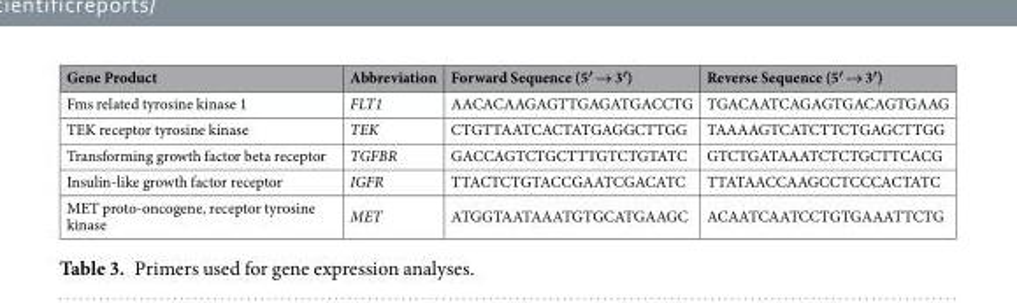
<table><thead><tr><td>Gene Product</td><td>Abbreviation</td><td>Forward Sequence (5′ → 3′)</td><td>Reverse Sequence (5′ → 3′)</td></tr></thead><tbody><tr><td>Fms related tyrosine kinase 1</td><td>FLT1</td><td>AACACAAGAGTTGAGATGACCTG</td><td>TGACAATCAGAGTGACAGTGAAG</td></tr><tr><td>TEK receptor tyrosine kinase</td><td>TEK</td><td>CTGTTAATCACTATGAGGCTTGG</td><td>TAAAAGTCATCTTCTGAGCTTGG</td></tr><tr><td>Transforming growth factor beta receptor</td><td>TGFBR</td><td>GACCAGTCTGCTTTGTCTGTATC</td><td>GTCTGATAAATCTCTGCTTCACG</td></tr><tr><td>Insulin-like growth factor receptor</td><td>IGFR</td><td>TTACTCTGTACCGAATCGACATC</td><td>TTATAACCAAGCCTCCCACTATC</td></tr><tr><td>MET proto-oncogene, receptor tyrosine kinase</td><td>MET</td><td>ATGGTAATAAATGTGCATGAAGC</td><td>ACAATCAATCCTGTGAAATTCTG</td></tr></tbody></table>